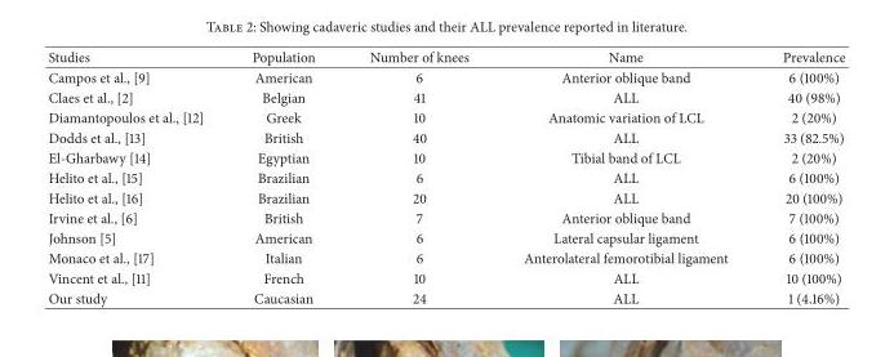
<table><thead><tr><td>Studies</td><td>Population</td><td>Number of knees</td><td>Name</td><td>Prevalence</td></tr></thead><tbody><tr><td>Campos et al., [9]</td><td>American</td><td>6</td><td>Anterior oblique band</td><td>6 (100%)</td></tr><tr><td>Claes et al., [2]</td><td>Belgian</td><td>41</td><td>ALL</td><td>40 (98%)</td></tr><tr><td>Diamantopoulos et al., [12]</td><td>Greek</td><td>10</td><td>Anatomic variation of LCL</td><td>2 (20%)</td></tr><tr><td>Dodds et al., [13]</td><td>British</td><td>40</td><td>ALL</td><td>33 (82.5%)</td></tr><tr><td>El-Gharbawy [14]</td><td>Egyptian</td><td>10</td><td>Tibial band of LCL</td><td>2 (20%)</td></tr><tr><td>Helito et al., [15]</td><td>Brazilian</td><td>6</td><td>ALL</td><td>6 (100%)</td></tr><tr><td>Helito et al., [16]</td><td>Brazilian</td><td>20</td><td>ALL</td><td>20 (100%)</td></tr><tr><td>Irvine et al., [6]</td><td>British</td><td>7</td><td>Anterior oblique band</td><td>7 (100%)</td></tr><tr><td>Johnson [5]</td><td>American</td><td>6</td><td>Lateral capsular ligament</td><td>6 (100%)</td></tr><tr><td>Monaco et al., [17]</td><td>Italian</td><td>6</td><td>Anterolateral femorotibial ligament</td><td>6 (100%)</td></tr><tr><td>Vincent et al., [11]</td><td>French</td><td>10</td><td>ALL</td><td>10 (100%)</td></tr><tr><td>Our study</td><td>Caucasian</td><td>24</td><td>ALL</td><td>1 (4.16%)</td></tr></tbody></table>